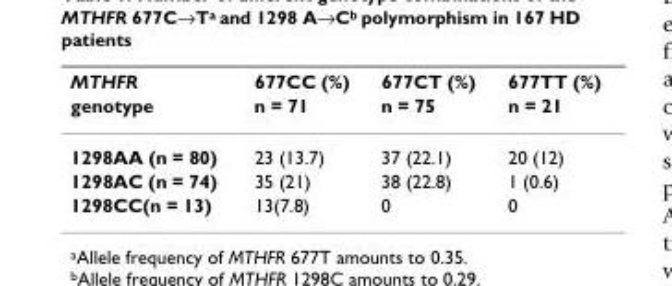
<table><thead><tr><td rowspan="2">MTHFR genotype</td><td rowspan="2">677CC (%) n = 71</td><td rowspan="2">677CT (%) n = 75</td><td rowspan="2">677TT (%) n = 21</td></tr><tr></tr></thead><tbody><tr><td>1298AA (n = 80)</td><td>23 (13.7)</td><td>37 (22.1)</td><td>20 (12)</td></tr><tr><td>1298AC (n = 74)</td><td>35 (21)</td><td>38 (22.8)</td><td>1 (0.6)</td></tr><tr><td>1298CC(n = 13)</td><td>13(7.8)</td><td>0</td><td>0</td></tr></tbody></table>